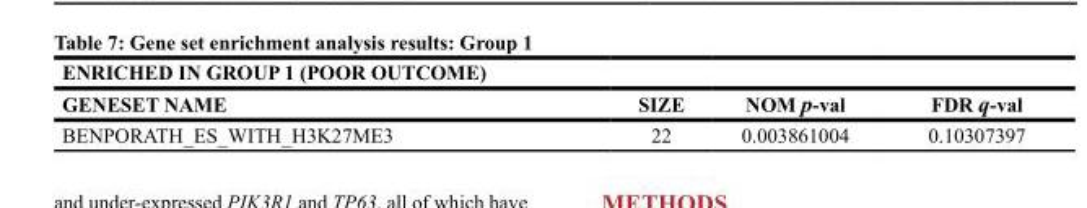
<table><thead><tr><td>ENRICHED IN GROUP 1 (POOR OUTCOME)</td><td></td><td></td><td></td></tr></thead><tbody><tr><td>GENESET NAME</td><td>SIZE</td><td>NOM p-val</td><td>FDR q-val</td></tr><tr><td>BENPORATH_ES_WITH_H3K27ME3</td><td>22</td><td>0.003861004</td><td>0.10307397</td></tr></tbody></table>